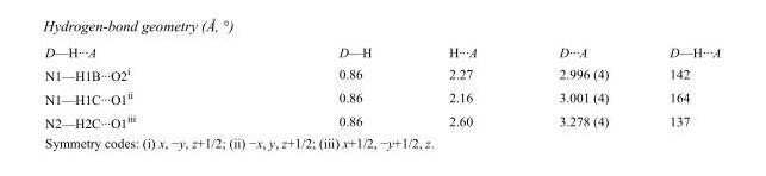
<table><tbody><tr><td>D—H···A</td><td>D—H</td><td>H···A</td><td>D···A</td><td>D—H···A</td></tr><tr><td>N1—H1B···O2<sup>i</sup></td><td>0.86</td><td>2.27</td><td>2.996 (4)</td><td>142</td></tr><tr><td>N1—H1C···O1<sup>ii</sup></td><td>0.86</td><td>2.16</td><td>3.001 (4)</td><td>164</td></tr><tr><td>N2—H2C···O1<sup>iii</sup></td><td>0.86</td><td>2.60</td><td>3.278 (4)</td><td>137</td></tr></tbody></table>